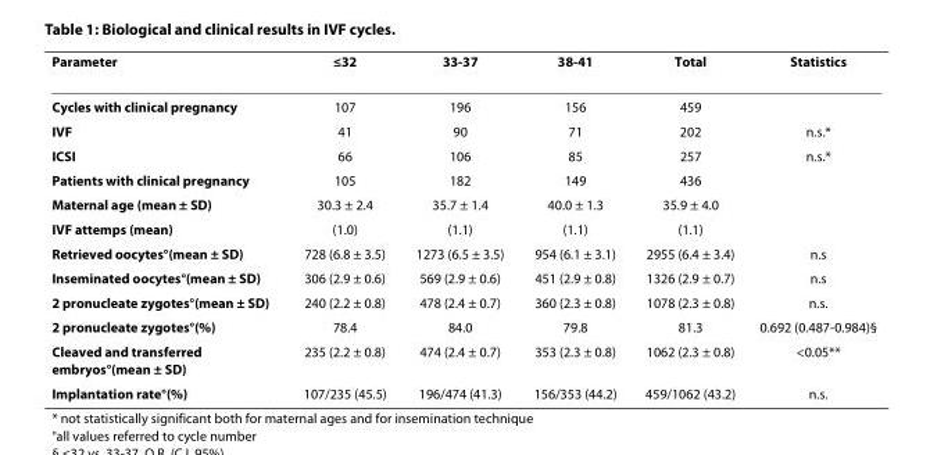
<table><thead><tr><td>Parameter</td><td>≤32</td><td>33-37</td><td>38-41</td><td>Total</td><td>Statistics</td></tr></thead><tbody><tr><td>Cycles with clinical pregnancy</td><td>107</td><td>196</td><td>156</td><td>459</td><td></td></tr><tr><td>IVF</td><td>41</td><td>90</td><td>71</td><td>202</td><td>n.s.*</td></tr><tr><td>ICSI</td><td>66</td><td>106</td><td>85</td><td>257</td><td>n.s.*</td></tr><tr><td>Patients with clinical pregnancy</td><td>105</td><td>182</td><td>149</td><td>436</td><td></td></tr><tr><td>Maternal age (mean ± SD)</td><td>30.3 ± 2.4</td><td>35.7 ± 1.4</td><td>40.0 ± 1.3</td><td>35.9 ± 4.0</td><td></td></tr><tr><td>IVF attemps (mean)</td><td>(1.0)</td><td>(1.1)</td><td>(1.1)</td><td>(1.1)</td><td></td></tr><tr><td>Retrieved oocytes°(mean ± SD)</td><td>728 (6.8 ± 3.5)</td><td>1273 (6.5 ± 3.5)</td><td>954 (6.1 ± 3.1)</td><td>2955 (6.4 ± 3.4)</td><td>n.s</td></tr><tr><td>Inseminated oocytes°(mean ± SD)</td><td>306 (2.9 ± 0.6)</td><td>569 (2.9 ± 0.6)</td><td>451 (2.9 ± 0.8)</td><td>1326 (2.9 ± 0.7)</td><td>n.s</td></tr><tr><td>2 pronucleate zygotes°(mean ± SD)</td><td>240 (2.2 ± 0.8)</td><td>478 (2.4 ± 0.7)</td><td>360 (2.3 ± 0.8)</td><td>1078 (2.3 ± 0.8)</td><td>n.s.</td></tr><tr><td>2 pronucleate zygotes°(%)</td><td>78.4</td><td>84.0</td><td>79.8</td><td>81.3</td><td>0.692 (0.487-0.984)§</td></tr><tr><td>Cleaved and transferred embryos°(mean ± SD)</td><td>235 (2.2 ± 0.8)</td><td>474 (2.4 ± 0.7)</td><td>353 (2.3 ± 0.8)</td><td>1062 (2.3 ± 0.8)</td><td>&lt;0.05**</td></tr><tr><td>Implantation rate°(%)</td><td>107/235 (45.5)</td><td>196/474 (41.3)</td><td>156/353 (44.2)</td><td>459/1062 (43.2)</td><td>n.s.</td></tr></tbody></table>